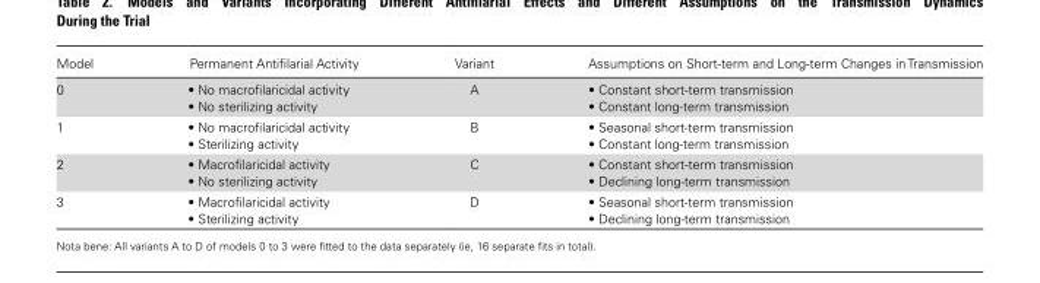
<table><thead><tr><td>Model</td><td>Permanent Antifilarial Activity</td><td>Variant</td><td>Assumptions on Short-term and Long-term Changes in Transmission</td></tr></thead><tbody><tr><td>0</td><td>• No macrofilaricidal activity • No sterilizing activity</td><td>A</td><td>• Constant short-term transmission • Constant long-term transmission</td></tr><tr><td>1</td><td>• No macrofilaricidal activity • Sterilizing activity</td><td>B</td><td>• Seasonal short-term transmission • Constant long-term transmission</td></tr><tr><td>2</td><td>• Macrofilaricidal activity • No sterilizing activity</td><td>C</td><td>• Constant short-term transmission • Declining long-term transmission</td></tr><tr><td>3</td><td>• Macrofilaricidal activity • Sterilizing activity</td><td>D</td><td>• Seasonal short-term transmission • Declining long-term transmission</td></tr></tbody></table>